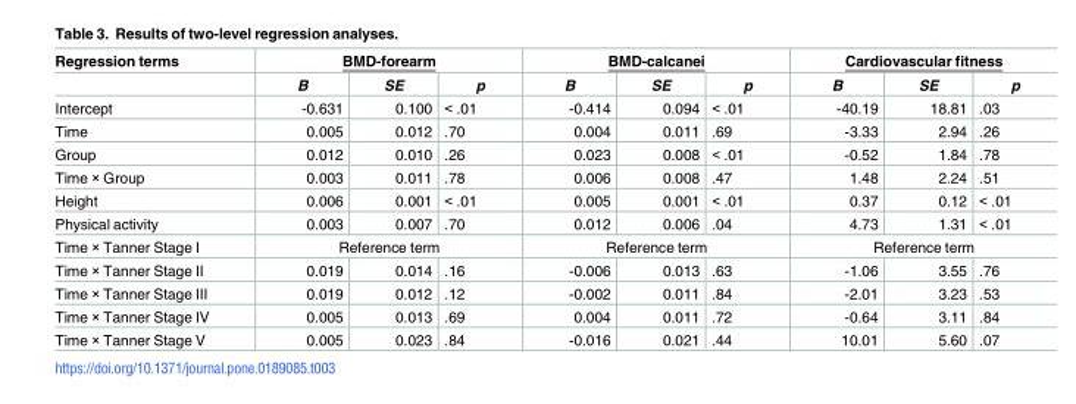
<table><thead><tr><td rowspan="2">Regression terms</td><td colspan="3">BMD-forearm</td><td colspan="3">BMD-calcanei</td><td colspan="3">Cardiovascular fitness</td></tr><tr><td>B</td><td>SE</td><td>p</td><td>B</td><td>SE</td><td>p</td><td>B</td><td>SE</td><td>p</td></tr></thead><tbody><tr><td>Intercept</td><td>-0.631</td><td>0.100</td><td>&lt; .01</td><td>-0.414</td><td>0.094</td><td>&lt; .01</td><td>-40.19</td><td>18.81</td><td>.03</td></tr><tr><td>Time</td><td>0.005</td><td>0.012</td><td>.70</td><td>0.004</td><td>0.011</td><td>.69</td><td>-3.33</td><td>2.94</td><td>.26</td></tr><tr><td>Group</td><td>0.012</td><td>0.010</td><td>.26</td><td>0.023</td><td>0.008</td><td>&lt; .01</td><td>-0.52</td><td>1.84</td><td>.78</td></tr><tr><td>Time × Group</td><td>0.003</td><td>0.011</td><td>.78</td><td>0.006</td><td>0.008</td><td>.47</td><td>1.48</td><td>2.24</td><td>.51</td></tr><tr><td>Height</td><td>0.006</td><td>0.001</td><td>&lt; .01</td><td>0.005</td><td>0.001</td><td>&lt; .01</td><td>0.37</td><td>0.12</td><td>&lt; .01</td></tr><tr><td>Physical activity</td><td>0.003</td><td>0.007</td><td>.70</td><td>0.012</td><td>0.006</td><td>.04</td><td>4.73</td><td>1.31</td><td>&lt; .01</td></tr><tr><td>Time × Tanner Stage I</td><td colspan="3">Reference term</td><td colspan="3">Reference term</td><td colspan="3">Reference term</td></tr><tr><td>Time × Tanner Stage II</td><td>0.019</td><td>0.014</td><td>.16</td><td>-0.006</td><td>0.013</td><td>.63</td><td>-1.06</td><td>3.55</td><td>.76</td></tr><tr><td>Time × Tanner Stage III</td><td>0.019</td><td>0.012</td><td>.12</td><td>-0.002</td><td>0.011</td><td>.84</td><td>-2.01</td><td>3.23</td><td>.53</td></tr><tr><td>Time × Tanner Stage IV</td><td>0.005</td><td>0.013</td><td>.69</td><td>0.004</td><td>0.011</td><td>.72</td><td>-0.64</td><td>3.11</td><td>.84</td></tr><tr><td>Time × Tanner Stage V</td><td>0.005</td><td>0.023</td><td>.84</td><td>-0.016</td><td>0.021</td><td>.44</td><td>10.01</td><td>5.60</td><td>.07</td></tr></tbody></table>